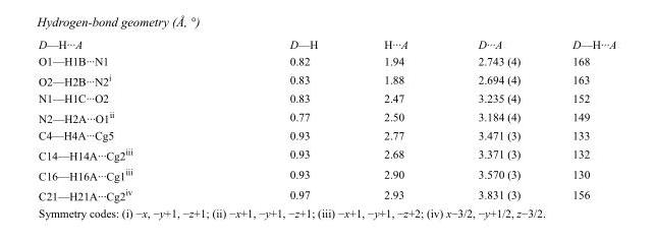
<table><tbody><tr><td>D—H···A</td><td>D—H</td><td>H···A</td><td>D···A</td><td>D—H···A</td></tr><tr><td>O1—H1B···N1</td><td>0.82</td><td>1.94</td><td>2.743 (4)</td><td>168</td></tr><tr><td>O2—H2B···N2<sup>i</sup></td><td>0.83</td><td>1.88</td><td>2.694 (4)</td><td>163</td></tr><tr><td>N1—H1C···O2</td><td>0.83</td><td>2.47</td><td>3.235 (4)</td><td>152</td></tr><tr><td>N2—H2A···O1<sup>ii</sup></td><td>0.77</td><td>2.50</td><td>3.184 (4)</td><td>149</td></tr><tr><td>C4—H4A···Cg5</td><td>0.93</td><td>2.77</td><td>3.471 (3)</td><td>133</td></tr><tr><td>C14—H14A···Cg2<sup>iii</sup></td><td>0.93</td><td>2.68</td><td>3.371 (3)</td><td>132</td></tr><tr><td>C16—H16A···Cg1<sup>iii</sup></td><td>0.93</td><td>2.90</td><td>3.570 (3)</td><td>130</td></tr><tr><td>C21—H21A···Cg2<sup>iv</sup></td><td>0.97</td><td>2.93</td><td>3.831 (3)</td><td>156</td></tr></tbody></table>